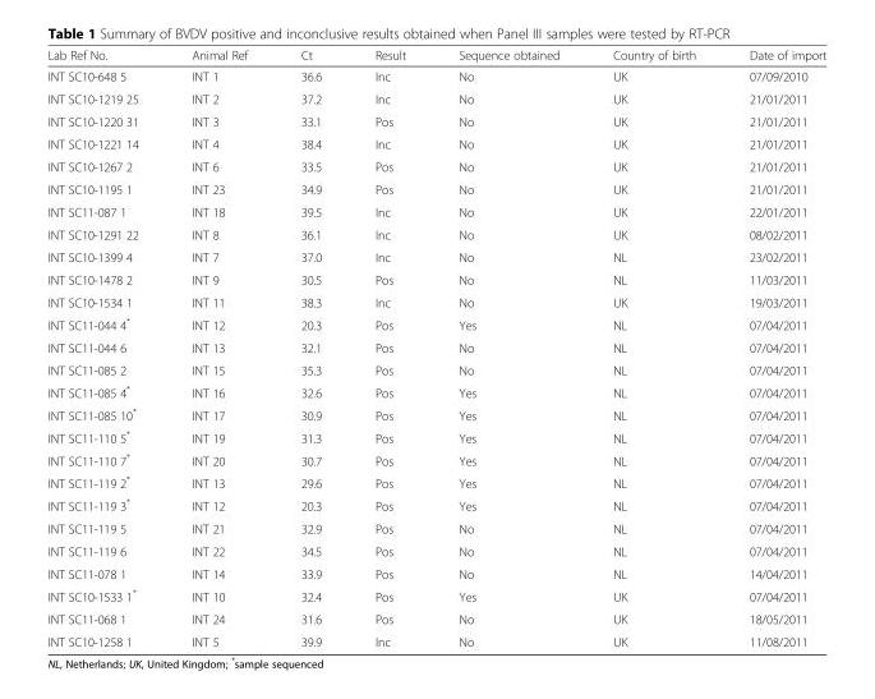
<table><thead><tr><td>Lab Ref No.</td><td>Animal Ref</td><td>Ct</td><td>Result</td><td>Sequence obtained</td><td>Country of birth</td><td>Date of import</td></tr></thead><tbody><tr><td>INT SC10-648 5</td><td>INT 1</td><td>36.6</td><td>Inc</td><td>No</td><td>UK</td><td>07/09/2010</td></tr><tr><td>INT SC10-1219 25</td><td>INT 2</td><td>37.2</td><td>Inc</td><td>No</td><td>UK</td><td>21/01/2011</td></tr><tr><td>INT SC10-1220 31</td><td>INT 3</td><td>33.1</td><td>Pos</td><td>No</td><td>UK</td><td>21/01/2011</td></tr><tr><td>INT SC10-1221 14</td><td>INT 4</td><td>38.4</td><td>Inc</td><td>No</td><td>UK</td><td>21/01/2011</td></tr><tr><td>INT SC10-1267 2</td><td>INT 6</td><td>33.5</td><td>Pos</td><td>No</td><td>UK</td><td>21/01/2011</td></tr><tr><td>INT SC10-1195 1</td><td>INT 23</td><td>34.9</td><td>Pos</td><td>No</td><td>UK</td><td>21/01/2011</td></tr><tr><td>INT SC11-087 1</td><td>INT 18</td><td>39.5</td><td>Inc</td><td>No</td><td>UK</td><td>22/01/2011</td></tr><tr><td>INT SC10-1291 22</td><td>INT 8</td><td>36.1</td><td>Inc</td><td>No</td><td>UK</td><td>08/02/2011</td></tr><tr><td>INT SC10-1399 4</td><td>INT 7</td><td>37.0</td><td>Inc</td><td>No</td><td>NL</td><td>23/02/2011</td></tr><tr><td>INT SC10-1478 2</td><td>INT 9</td><td>30.5</td><td>Pos</td><td>No</td><td>NL</td><td>11/03/2011</td></tr><tr><td>INT SC10-1534 1</td><td>INT 11</td><td>38.3</td><td>Inc</td><td>No</td><td>UK</td><td>19/03/2011</td></tr><tr><td>INT SC11-044 4*</td><td>INT 12</td><td>20.3</td><td>Pos</td><td>Yes</td><td>NL</td><td>07/04/2011</td></tr><tr><td>INT SC11-044 6</td><td>INT 13</td><td>32.1</td><td>Pos</td><td>No</td><td>NL</td><td>07/04/2011</td></tr><tr><td>INT SC11-085 2</td><td>INT 15</td><td>35.3</td><td>Pos</td><td>No</td><td>NL</td><td>07/04/2011</td></tr><tr><td>INT SC11-085 4*</td><td>INT 16</td><td>32.6</td><td>Pos</td><td>Yes</td><td>NL</td><td>07/04/2011</td></tr><tr><td>INT SC11-085 10*</td><td>INT 17</td><td>30.9</td><td>Pos</td><td>Yes</td><td>NL</td><td>07/04/2011</td></tr><tr><td>INT SC11-110 5*</td><td>INT 19</td><td>31.3</td><td>Pos</td><td>Yes</td><td>NL</td><td>07/04/2011</td></tr><tr><td>INT SC11-110 7*</td><td>INT 20</td><td>30.7</td><td>Pos</td><td>Yes</td><td>NL</td><td>07/04/2011</td></tr><tr><td>INT SC11-119 2*</td><td>INT 13</td><td>29.6</td><td>Pos</td><td>Yes</td><td>NL</td><td>07/04/2011</td></tr><tr><td>INT SC11-119 3*</td><td>INT 12</td><td>20.3</td><td>Pos</td><td>Yes</td><td>NL</td><td>07/04/2011</td></tr><tr><td>INT SC11-119 5</td><td>INT 21</td><td>32.9</td><td>Pos</td><td>No</td><td>NL</td><td>07/04/2011</td></tr><tr><td>INT SC11-119 6</td><td>INT 22</td><td>34.5</td><td>Pos</td><td>No</td><td>NL</td><td>07/04/2011</td></tr><tr><td>INT SC11-078 1</td><td>INT 14</td><td>33.9</td><td>Pos</td><td>No</td><td>NL</td><td>14/04/2011</td></tr><tr><td>INT SC10-1533 1*</td><td>INT 10</td><td>32.4</td><td>Pos</td><td>Yes</td><td>UK</td><td>07/04/2011</td></tr><tr><td>INT SC11-068 1</td><td>INT 24</td><td>31.6</td><td>Pos</td><td>No</td><td>UK</td><td>18/05/2011</td></tr><tr><td>INT SC10-1258 1</td><td>INT 5</td><td>39.9</td><td>Inc</td><td>No</td><td>UK</td><td>11/08/2011</td></tr></tbody></table>